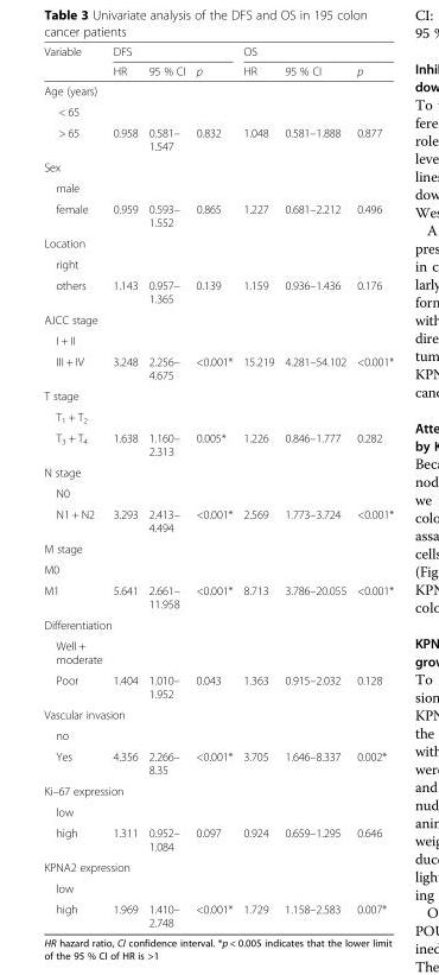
<table><thead><tr><td rowspan="2">Variable</td><td colspan="3">DFS</td><td colspan="3">OS</td></tr><tr><td>HR</td><td>95 % CI</td><td>p</td><td>HR</td><td>95 % CI</td><td>p</td></tr></thead><tbody><tr><td colspan="7">Age (years)</td></tr><tr><td colspan="7">&lt; 65</td></tr><tr><td>&gt; 65</td><td>0.958</td><td>0.581– 1.547</td><td>0.832</td><td>1.048</td><td>0.581–1.888</td><td>0.877</td></tr><tr><td colspan="7">Sex</td></tr><tr><td colspan="7">male</td></tr><tr><td>female</td><td>0.959</td><td>0.593– 1.552</td><td>0.865</td><td>1.227</td><td>0.681–2.212</td><td>0.496</td></tr><tr><td colspan="7">Location</td></tr><tr><td colspan="7">right</td></tr><tr><td>others</td><td>1.143</td><td>0.957– 1.365</td><td>0.139</td><td>1.159</td><td>0.936–1.436</td><td>0.176</td></tr><tr><td colspan="7">AJCC stage</td></tr><tr><td colspan="7">I + II</td></tr><tr><td>III + IV</td><td>3.248</td><td>2.256– 4.675</td><td>&lt;0.001*</td><td>15.219</td><td>4.281–54.102</td><td>&lt;0.001*</td></tr><tr><td colspan="7">T stage</td></tr><tr><td colspan="7">T<sub>1</sub> + T<sub>2</sub></td></tr><tr><td>T<sub>3</sub> + T<sub>4</sub></td><td>1.638</td><td>1.160– 2.313</td><td>0.005*</td><td>1.226</td><td>0.846–1.777</td><td>0.282</td></tr><tr><td colspan="7">N stage</td></tr><tr><td colspan="7">N0</td></tr><tr><td>N1 + N2</td><td>3.293</td><td>2.413– 4.494</td><td>&lt;0.001*</td><td>2.569</td><td>1.773–3.724</td><td>&lt;0.001*</td></tr><tr><td colspan="7">M stage</td></tr><tr><td colspan="7">M0</td></tr><tr><td>M1</td><td>5.641</td><td>2.661– 11.958</td><td>&lt;0.001*</td><td>8.713</td><td>3.786–20.055</td><td>&lt;0.001*</td></tr><tr><td colspan="7">Differentiation</td></tr><tr><td colspan="7">Well + moderate</td></tr><tr><td>Poor</td><td>1.404</td><td>1.010– 1.952</td><td>0.043</td><td>1.363</td><td>0.915–2.032</td><td>0.128</td></tr><tr><td colspan="7">Vascular invasion</td></tr><tr><td colspan="7">no</td></tr><tr><td>Yes</td><td>4.356</td><td>2.266– 8.35</td><td>&lt;0.001*</td><td>3.705</td><td>1.646–8.337</td><td>0.002*</td></tr><tr><td colspan="7">Ki–67 expression</td></tr><tr><td colspan="7">low</td></tr><tr><td>high</td><td>1.311</td><td>0.952– 1.084</td><td>0.097</td><td>0.924</td><td>0.659–1.295</td><td>0.646</td></tr><tr><td colspan="7">KPNA2 expression</td></tr><tr><td colspan="7">low</td></tr><tr><td>high</td><td>1.969</td><td>1.410– 2.748</td><td>&lt;0.001*</td><td>1.729</td><td>1.158–2.583</td><td>0.007*</td></tr></tbody></table>